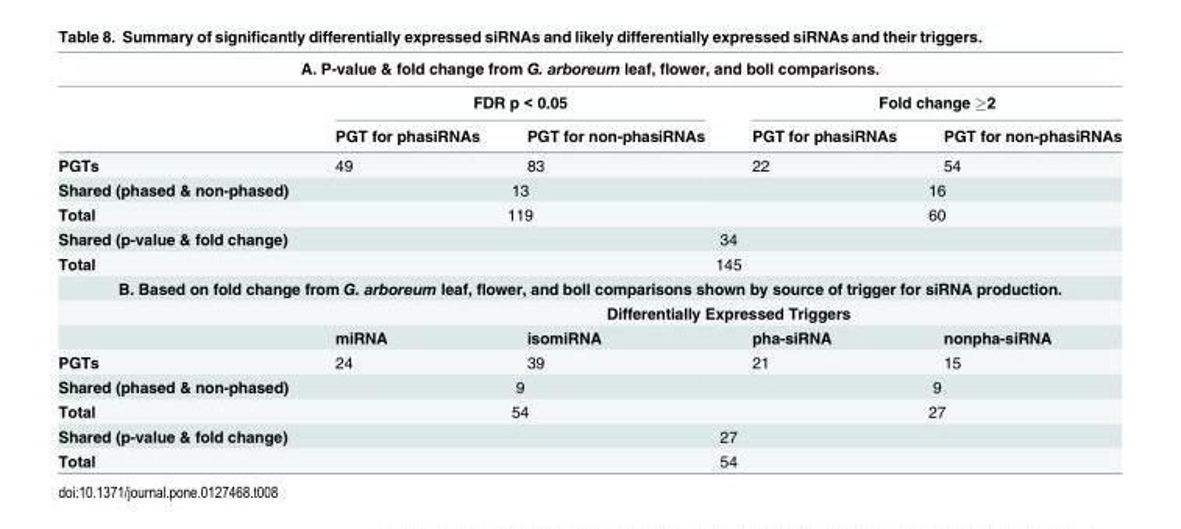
<table><thead><tr><td colspan="5">A. P-value &amp; fold change from G. arboreum leaf, flower, and boll comparisons.</td></tr><tr><td rowspan="2"></td><td colspan="2">FDR p &lt; 0.05</td><td colspan="2">Fold change ≥2</td></tr><tr><td>PGT for phasiRNAs</td><td>PGT for non-phasiRNAs</td><td>PGT for phasiRNAs</td><td>PGT for non-phasiRNAs</td></tr></thead><tbody><tr><td>PGTs</td><td>49</td><td>83</td><td>22</td><td>54</td></tr><tr><td>Shared (phased &amp; non-phased)</td><td colspan="2">13</td><td colspan="2">16</td></tr><tr><td>Total</td><td colspan="2">119</td><td colspan="2">60</td></tr><tr><td>Shared (p-value &amp; fold change)</td><td colspan="4">34</td></tr><tr><td>Total</td><td colspan="4">145</td></tr><tr><td colspan="5">B. Based on fold change from G. arboreum leaf, flower, and boll comparisons shown by source of trigger for siRNA production.</td></tr><tr><td></td><td colspan="4">Differentially Expressed Triggers</td></tr><tr><td></td><td>miRNA</td><td>isomiRNA</td><td>pha-siRNA</td><td>nonpha-siRNA</td></tr><tr><td>PGTs</td><td>24</td><td>39</td><td>21</td><td>15</td></tr><tr><td>Shared (phased &amp; non-phased)</td><td colspan="2">9</td><td colspan="2">9</td></tr><tr><td>Total</td><td colspan="2">54</td><td colspan="2">27</td></tr><tr><td>Shared (p-value &amp; fold change)</td><td colspan="4">27</td></tr><tr><td>Total</td><td colspan="4">54</td></tr></tbody></table>